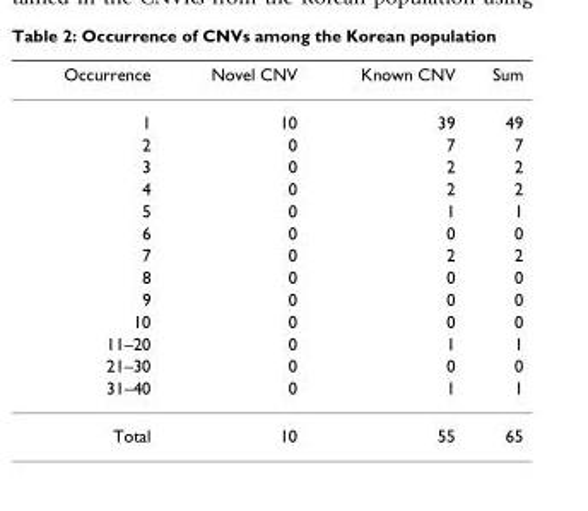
<table><thead><tr><td>Occurrence</td><td>Novel CNV</td><td>Known CNV</td><td>Sum</td></tr></thead><tbody><tr><td>1</td><td>10</td><td>39</td><td>49</td></tr><tr><td>2</td><td>0</td><td>7</td><td>7</td></tr><tr><td>3</td><td>0</td><td>2</td><td>2</td></tr><tr><td>4</td><td>0</td><td>2</td><td>2</td></tr><tr><td>5</td><td>0</td><td>1</td><td>1</td></tr><tr><td>6</td><td>0</td><td>0</td><td>0</td></tr><tr><td>7</td><td>0</td><td>2</td><td>2</td></tr><tr><td>8</td><td>0</td><td>0</td><td>0</td></tr><tr><td>9</td><td>0</td><td>0</td><td>0</td></tr><tr><td>10</td><td>0</td><td>0</td><td>0</td></tr><tr><td>11–20</td><td>0</td><td>1</td><td>1</td></tr><tr><td>21–30</td><td>0</td><td>0</td><td>0</td></tr><tr><td>31–40</td><td>0</td><td>1</td><td>1</td></tr><tr><td>Total</td><td>10</td><td>55</td><td>65</td></tr></tbody></table>